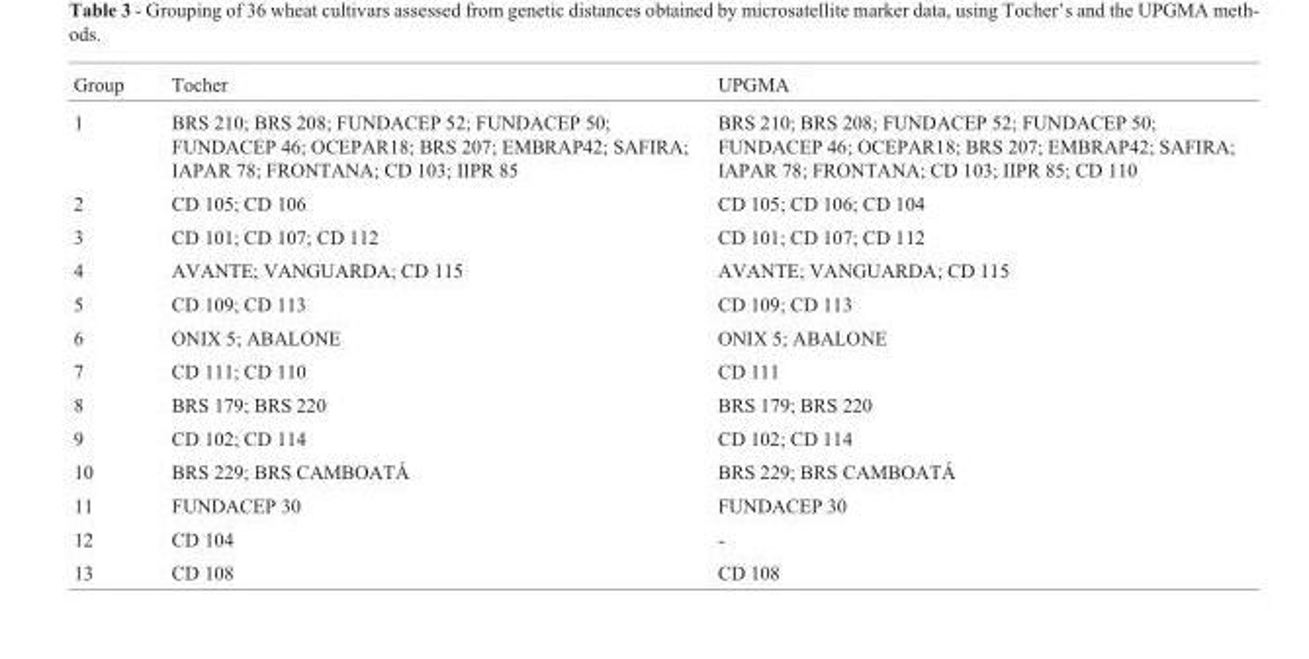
<table><thead><tr><td>Group</td><td>Tocher</td><td>UPGMA</td></tr></thead><tbody><tr><td>1</td><td>BRS 210; BRS 208; FUNDACEP 52; FUNDACEP 50; FUNDACEP 46; OCEPAR18; BRS 207; EMBRAP42; SAFIRA; IAPAR 78; FRONTANA; CD 103; IIPR 85</td><td>BRS 210; BRS 208; FUNDACEP 52; FUNDACEP 50; FUNDACEP 46; OCEPAR18; BRS 207; EMBRAP42; SAFIRA; IAPAR 78; FRONTANA; CD 103; IIPR 85; CD 110</td></tr><tr><td>2</td><td>CD 105; CD 106</td><td>CD 105; CD 106; CD 104</td></tr><tr><td>3</td><td>CD 101; CD 107; CD 112</td><td>CD 101; CD 107; CD 112</td></tr><tr><td>4</td><td>AVANTE; VANGUARDA; CD 115</td><td>AVANTE; VANGUARDA; CD 115</td></tr><tr><td>5</td><td>CD 109; CD 113</td><td>CD 109; CD 113</td></tr><tr><td>6</td><td>ONIX 5; ABALONE</td><td>ONIX 5; ABALONE</td></tr><tr><td>7</td><td>CD 111; CD 110</td><td>CD 111</td></tr><tr><td>8</td><td>BRS 179; BRS 220</td><td>BRS 179; BRS 220</td></tr><tr><td>9</td><td>CD 102; CD 114</td><td>CD 102; CD 114</td></tr><tr><td>10</td><td>BRS 229; BRS CAMBOATÁ</td><td>BRS 229; BRS CAMBOATÁ</td></tr><tr><td>11</td><td>FUNDACEP 30</td><td>FUNDACEP 30</td></tr><tr><td>12</td><td>CD 104</td><td>-</td></tr><tr><td>13</td><td>CD 108</td><td>CD 108</td></tr></tbody></table>